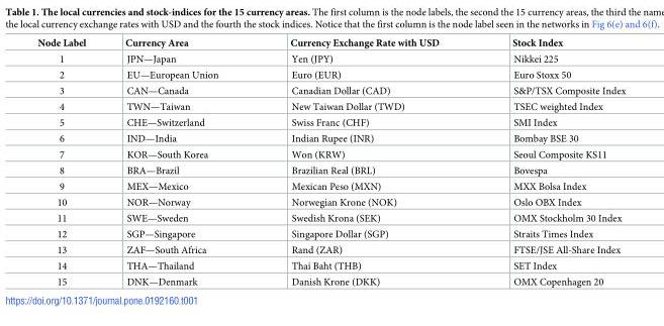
<table><thead><tr><td>Node Label</td><td>Currency Area</td><td>Currency Exchange Rate with USD</td><td>Stock Index</td></tr></thead><tbody><tr><td>1</td><td>JPN—Japan</td><td>Yen (JPY)</td><td>Nikkei 225</td></tr><tr><td>2</td><td>EU—European Union</td><td>Euro (EUR)</td><td>Euro Stoxx 50</td></tr><tr><td>3</td><td>CAN—Canada</td><td>Canadian Dollar (CAD)</td><td>S&amp;P/TSX Composite Index</td></tr><tr><td>4</td><td>TWN—Taiwan</td><td>New Taiwan Dollar (TWD)</td><td>TSEC weighted Index</td></tr><tr><td>5</td><td>CHE—Switzerland</td><td>Swiss Franc (CHF)</td><td>SMI Index</td></tr><tr><td>6</td><td>IND—India</td><td>Indian Rupee (INR)</td><td>Bombay BSE 30</td></tr><tr><td>7</td><td>KOR—South Korea</td><td>Won (KRW)</td><td>Seoul Composite KS11</td></tr><tr><td>8</td><td>BRA—Brazil</td><td>Brazilian Real (BRL)</td><td>Bovespa</td></tr><tr><td>9</td><td>MEX—Mexico</td><td>Mexican Peso (MXN)</td><td>MXX Bolsa Index</td></tr><tr><td>10</td><td>NOR—Norway</td><td>Norwegian Krone (NOK)</td><td>Oslo OBX Index</td></tr><tr><td>11</td><td>SWE—Sweden</td><td>Swedish Krona (SEK)</td><td>OMX Stockholm 30 Index</td></tr><tr><td>12</td><td>SGP—Singapore</td><td>Singapore Dollar (SGP)</td><td>Straits Times Index</td></tr><tr><td>13</td><td>ZAF—South Africa</td><td>Rand (ZAR)</td><td>FTSE/JSE All-Share Index</td></tr><tr><td>14</td><td>THA—Thailand</td><td>Thai Baht (THB)</td><td>SET Index</td></tr><tr><td>15</td><td>DNK—Denmark</td><td>Danish Krone (DKK)</td><td>OMX Copenhagen 20</td></tr></tbody></table>